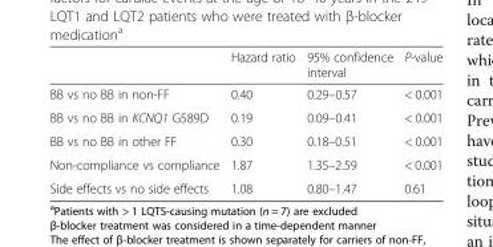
<table><thead><tr><td></td><td>Hazard ratio</td><td>95% confidence interval</td><td>P-value</td></tr></thead><tbody><tr><td>BB vs no BB in non-FF</td><td>0.40</td><td>0.29–0.57</td><td>&lt; 0.001</td></tr><tr><td>BB vs no BB in KCNQ1 G589D</td><td>0.19</td><td>0.09–0.41</td><td>&lt; 0.001</td></tr><tr><td>BB vs no BB in other FF</td><td>0.30</td><td>0.18–0.51</td><td>&lt; 0.001</td></tr><tr><td>Non-compliance vs compliance</td><td>1.87</td><td>1.35–2.59</td><td>&lt; 0.001</td></tr><tr><td>Side effects vs no side effects</td><td>1.08</td><td>0.80–1.47</td><td>0.61</td></tr></tbody></table>